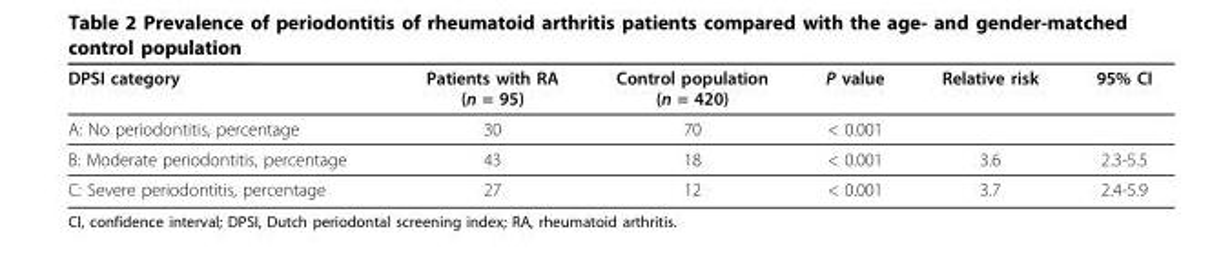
<table><thead><tr><td>DPSI category</td><td>Patients with RA (n = 95)</td><td>Control population (n = 420)</td><td>P value</td><td>Relative risk</td><td>95% CI</td></tr></thead><tbody><tr><td>A: No periodontitis, percentage</td><td>30</td><td>70</td><td>&lt; 0.001</td><td></td><td></td></tr><tr><td>B: Moderate periodontitis, percentage</td><td>43</td><td>18</td><td>&lt; 0.001</td><td>3.6</td><td>2.3-5.5</td></tr><tr><td>C: Severe periodontitis, percentage</td><td>27</td><td>12</td><td>&lt; 0.001</td><td>3.7</td><td>2.4-5.9</td></tr></tbody></table>